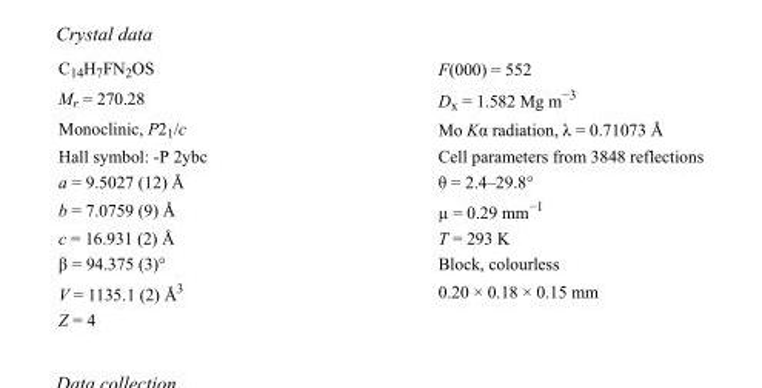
<table><tbody><tr><td>C<sub>14</sub>H<sub>7</sub>FN<sub>2</sub>OS</td><td>F(000) = 552</td></tr><tr><td>M<sub>r</sub> = 270.28</td><td>D<sub>x</sub> = 1.582 Mg m<sup>−3</sup></td></tr><tr><td>Monoclinic, P2<sub>1</sub>/c</td><td>Mo Kα radiation, λ = 0.71073 Å</td></tr><tr><td>Hall symbol: -P 2ybc</td><td>Cell parameters from 3848 reflections</td></tr><tr><td>a = 9.5027 (12) Å</td><td>θ = 2.4–29.8°</td></tr><tr><td>b = 7.0759 (9) Å</td><td>µ = 0.29 mm<sup>−1</sup></td></tr><tr><td>c = 16.931 (2) Å</td><td>T = 293 K</td></tr><tr><td>β = 94.375 (3)°</td><td>Block, colourless</td></tr><tr><td>V = 1135.1 (2) Å<sup>3</sup></td><td>0.20 × 0.18 × 0.15 mm</td></tr><tr><td>Z = 4</td><td></td></tr></tbody></table>